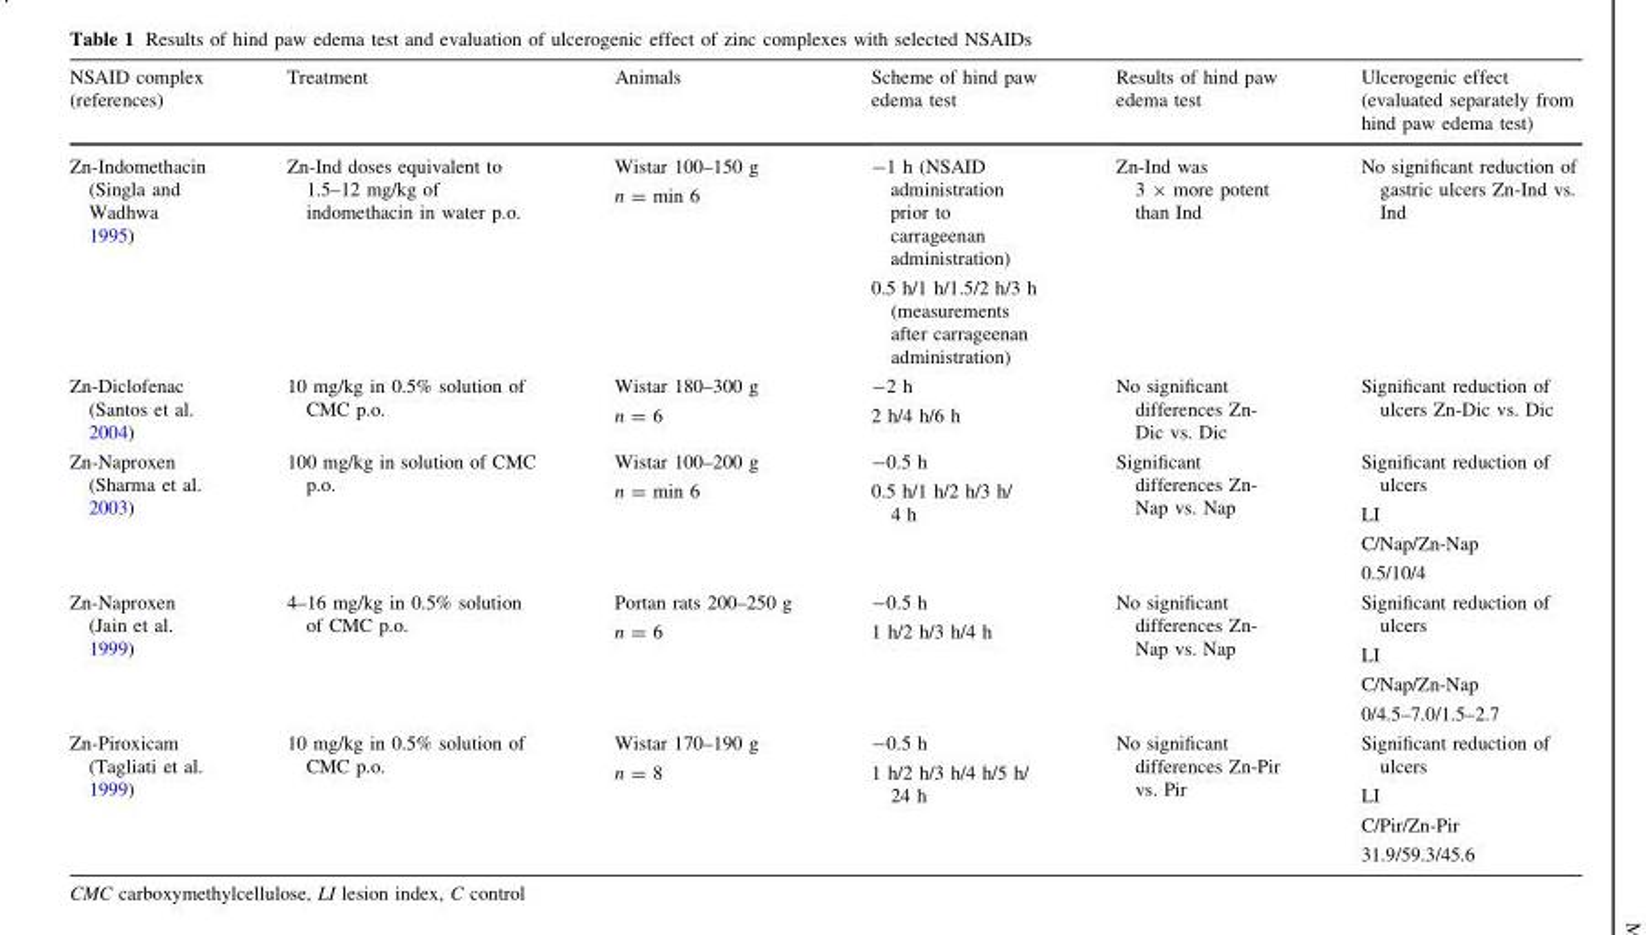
<table><thead><tr><td>NSAID complex (references)</td><td>Treatment</td><td>Animals</td><td>Scheme of hind paw edema test</td><td>Results of hind paw edema test</td><td>Ulcerogenic effect (evaluated separately from hind paw edema test)</td></tr></thead><tbody><tr><td>Zn-Indomethacin (Singla and Wadhwa 1995)</td><td>Zn-Ind doses equivalent to 1.5–12 mg/kg of indomethacin in water p.o.</td><td>Wistar 100–150 g n = min 6</td><td>-1 h (NSAID administration prior to carrageenan administration) 0.5 h/1 h/1.5/2 h/3 h (measurements after carrageenan administration)</td><td>Zn-Ind was 3 × more potent than Ind</td><td>No significant reduction of gastric ulcers Zn-Ind vs. Ind</td></tr><tr><td>Zn-Diclofenac (Santos et al. 2004)</td><td>10 mg/kg in 0.5% solution of CMC p.o.</td><td>Wistar 180–300 g n = 6</td><td>-2 h 2 h/4 h/6 h</td><td>No significant differences Zn- Dic vs. Dic</td><td>Significant reduction of ulcers Zn-Dic vs. Dic</td></tr><tr><td>Zn-Naproxen (Sharma et al. 2003)</td><td>100 mg/kg in solution of CMC p.o.</td><td>Wistar 100–200 g n = min 6</td><td>-0.5 h 0.5 h/1 h/2 h/3 h/ 4 h</td><td>Significant differences Zn- Nap vs. Nap</td><td>Significant reduction of ulcers LI C/Nap/Zn-Nap 0.5/10/4</td></tr><tr><td>Zn-Naproxen (Jain et al. 1999)</td><td>4–16 mg/kg in 0.5% solution of CMC p.o.</td><td>Portan rats 200–250 g n = 6</td><td>-0.5 h 1 h/2 h/3 h/4 h</td><td>No significant differences Zn- Nap vs. Nap</td><td>Significant reduction of ulcers LI C/Nap/Zn-Nap 0/4.5–7.0/1.5–2.7</td></tr><tr><td>Zn-Piroxicam (Tagliati et al. 1999)</td><td>10 mg/kg in 0.5% solution of CMC p.o.</td><td>Wistar 170–190 g n = 8</td><td>-0.5 h 1 h/2 h/3 h/4 h/5 h/ 24 h</td><td>No significant differences Zn-Pir vs. Pir</td><td>Significant reduction of ulcers LI C/Pir/Zn-Pir 31.9/59.3/45.6</td></tr></tbody></table>